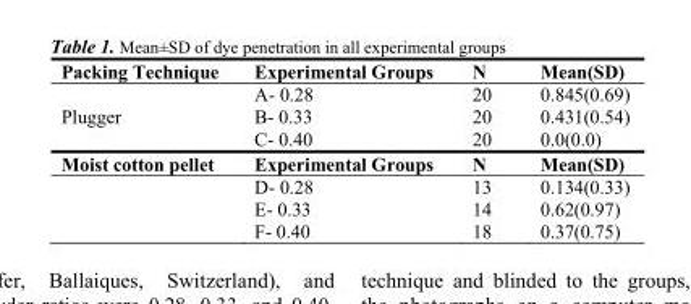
<table><thead><tr><td>Packing Technique</td><td>Experimental Groups</td><td>N</td><td>Mean(SD)</td></tr></thead><tbody><tr><td></td><td>A- 0.28</td><td>20</td><td>0.845(0.69)</td></tr><tr><td rowspan="2">Plugger</td><td>B- 0.33</td><td>20</td><td>0.431(0.54)</td></tr><tr><td>C- 0.40</td><td>20</td><td>0.0(0.0)</td></tr><tr><td rowspan="4">Moist cotton pellet</td><td>Experimental Groups</td><td>N</td><td>Mean(SD)</td></tr><tr><td>D- 0.28</td><td>13</td><td>0.134(0.33)</td></tr><tr><td>E- 0.33</td><td>14</td><td>0.62(0.97)</td></tr><tr><td>F- 0.40</td><td>18</td><td>0.37(0.75)</td></tr></tbody></table>